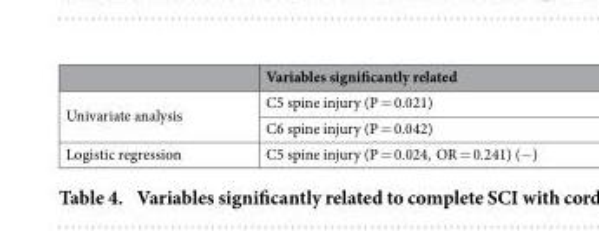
<table><thead><tr><td></td><td>Variables significantly related</td></tr></thead><tbody><tr><td rowspan="2">Univariate analysis</td><td>C5 spine injury (P = 0.021)</td></tr><tr><td>C6 spine injury (P = 0.042)</td></tr><tr><td>Logistic regression</td><td>C5 spine injury (P = 0.024, OR = 0.241) (−</td></tr></tbody></table>